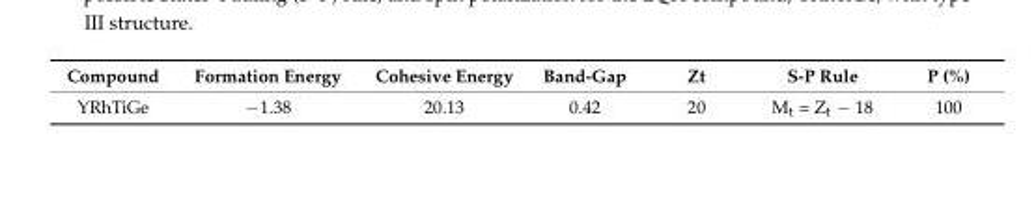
<table><thead><tr><td>Compound</td><td>Formation Energy</td><td>Cohesive Energy</td><td>Band-Gap</td><td>Zt</td><td>S-P Rule</td><td>P (%)</td></tr></thead><tbody><tr><td>YRhTiGe</td><td>−1.38</td><td>20.13</td><td>0.42</td><td>20</td><td>M<sub>t</sub> = Z<sub>t</sub> − 18</td><td>100</td></tr></tbody></table>